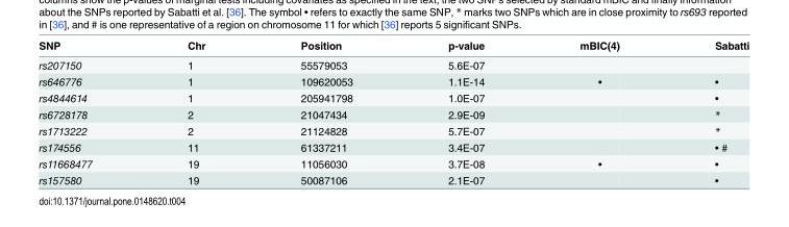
<table><thead><tr><td>SNP</td><td>Chr</td><td>Position</td><td>p-value</td><td>mBIC(4)</td><td>Sabatti</td></tr></thead><tbody><tr><td>rs207150</td><td>1</td><td>55579053</td><td>5.6E-07</td><td></td><td></td></tr><tr><td>rs646776</td><td>1</td><td>109620053</td><td>1.1E-14</td><td>•</td><td>•</td></tr><tr><td>rs4844614</td><td>1</td><td>205941798</td><td>1.0E-07</td><td></td><td>•</td></tr><tr><td>rs6728178</td><td>2</td><td>21047434</td><td>2.9E-09</td><td></td><td>*</td></tr><tr><td>rs1713222</td><td>2</td><td>21124828</td><td>5.7E-07</td><td></td><td>*</td></tr><tr><td>rs174556</td><td>11</td><td>61337211</td><td>3.4E-07</td><td></td><td>• #</td></tr><tr><td>rs11668477</td><td>19</td><td>11056030</td><td>3.7E-08</td><td>•</td><td>•</td></tr><tr><td>rs157580</td><td>19</td><td>50087106</td><td>2.1E-07</td><td></td><td>•</td></tr></tbody></table>